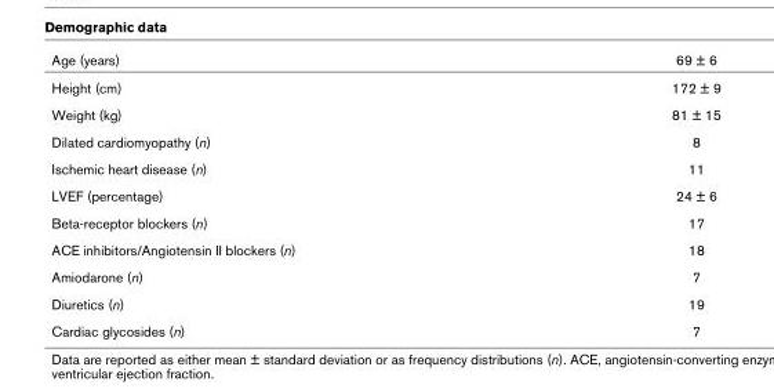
<table><thead><tr><td>Age (years)</td><td>69 ± 6</td></tr></thead><tbody><tr><td>Height (cm)</td><td>172 ± 9</td></tr><tr><td>Weight (kg)</td><td>81 ± 15</td></tr><tr><td>Dilated cardiomyopathy (n)</td><td>8</td></tr><tr><td>Ischemic heart disease (n)</td><td>11</td></tr><tr><td>LVEF (percentage)</td><td>24 ± 6</td></tr><tr><td>Beta-receptor blockers (n)</td><td>17</td></tr><tr><td>ACE inhibitors/Angiotensin II blockers (n)</td><td>18</td></tr><tr><td>Amiodarone (n)</td><td>7</td></tr><tr><td>Diuretics (n)</td><td>19</td></tr><tr><td>Cardiac glycosides (n)</td><td>7</td></tr></tbody></table>